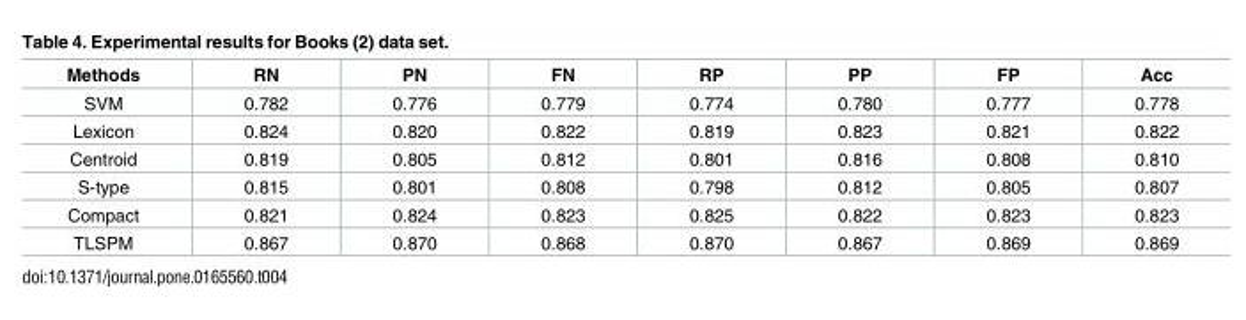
<table><thead><tr><td>Methods</td><td>RN</td><td>PN</td><td>FN</td><td>RP</td><td>PP</td><td>FP</td><td>Acc</td></tr></thead><tbody><tr><td>SVM</td><td>0.782</td><td>0.776</td><td>0.779</td><td>0.774</td><td>0.780</td><td>0.777</td><td>0.778</td></tr><tr><td>Lexicon</td><td>0.824</td><td>0.820</td><td>0.822</td><td>0.819</td><td>0.823</td><td>0.821</td><td>0.822</td></tr><tr><td>Centroid</td><td>0.819</td><td>0.805</td><td>0.812</td><td>0.801</td><td>0.816</td><td>0.808</td><td>0.810</td></tr><tr><td>S-type</td><td>0.815</td><td>0.801</td><td>0.808</td><td>0.798</td><td>0.812</td><td>0.805</td><td>0.807</td></tr><tr><td>Compact</td><td>0.821</td><td>0.824</td><td>0.823</td><td>0.825</td><td>0.822</td><td>0.823</td><td>0.823</td></tr><tr><td>TLSPM</td><td>0.867</td><td>0.870</td><td>0.868</td><td>0.870</td><td>0.867</td><td>0.869</td><td>0.869</td></tr></tbody></table>